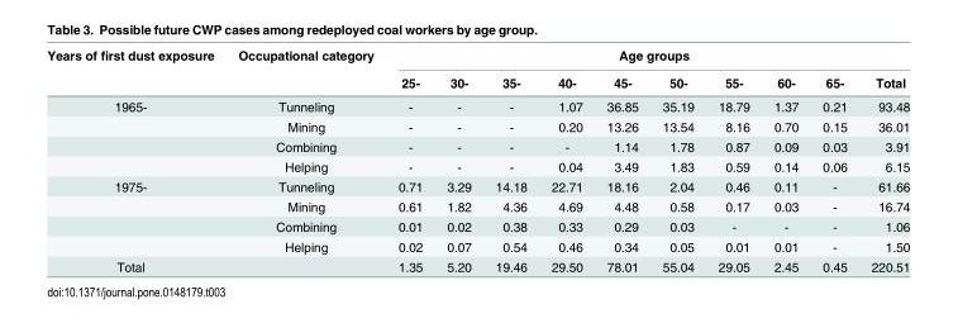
<table><thead><tr><td rowspan="2">Years of first dust exposure</td><td rowspan="2">Occupational category</td><td colspan="10">Age groups</td></tr><tr><td>25-</td><td>30-</td><td>35-</td><td>40-</td><td>45-</td><td>50-</td><td>55-</td><td>60-</td><td>65-</td><td>Total</td></tr></thead><tbody><tr><td rowspan="4">1965-</td><td>Tunneling</td><td>-</td><td>-</td><td>-</td><td>1.07</td><td>36.85</td><td>35.19</td><td>18.79</td><td>1.37</td><td>0.21</td><td>93.48</td></tr><tr><td>Mining</td><td>-</td><td>-</td><td>-</td><td>0.20</td><td>13.26</td><td>13.54</td><td>8.16</td><td>0.70</td><td>0.15</td><td>36.01</td></tr><tr><td>Combining</td><td>-</td><td>-</td><td>-</td><td>-</td><td>1.14</td><td>1.78</td><td>0.87</td><td>0.09</td><td>0.03</td><td>3.91</td></tr><tr><td>Helping</td><td>-</td><td>-</td><td>-</td><td>0.04</td><td>3.49</td><td>1.83</td><td>0.59</td><td>0.14</td><td>0.06</td><td>6.15</td></tr><tr><td rowspan="4">1975-</td><td>Tunneling</td><td>0.71</td><td>3.29</td><td>14.18</td><td>22.71</td><td>18.16</td><td>2.04</td><td>0.46</td><td>0.11</td><td>-</td><td>61.66</td></tr><tr><td>Mining</td><td>0.61</td><td>1.82</td><td>4.36</td><td>4.69</td><td>4.48</td><td>0.58</td><td>0.17</td><td>0.03</td><td>-</td><td>16.74</td></tr><tr><td>Combining</td><td>0.01</td><td>0.02</td><td>0.38</td><td>0.33</td><td>0.29</td><td>0.03</td><td>-</td><td>-</td><td>-</td><td>1.06</td></tr><tr><td>Helping</td><td>0.02</td><td>0.07</td><td>0.54</td><td>0.46</td><td>0.34</td><td>0.05</td><td>0.01</td><td>0.01</td><td>-</td><td>1.50</td></tr><tr><td>Total</td><td></td><td>1.35</td><td>5.20</td><td>19.46</td><td>29.50</td><td>78.01</td><td>55.04</td><td>29.05</td><td>2.45</td><td>0.45</td><td>220.51</td></tr></tbody></table>